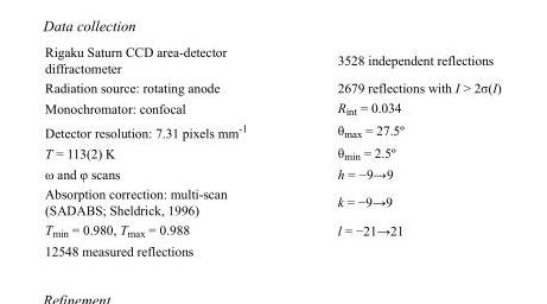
<table><tbody><tr><td>Rigaku Saturn CCD area-detector diffractometer</td><td>3528 independent reflections</td></tr><tr><td>Radiation source: rotating anode</td><td>2679 reflections with I &gt; 2σ(I)</td></tr><tr><td>Monochromator: confocal</td><td>R<sub>int</sub> = 0.034</td></tr><tr><td>Detector resolution: 7.31 pixels mm<sup>-1</sup></td><td>θ<sub>max</sub> = 27.5º</td></tr><tr><td>T = 113(2) K</td><td>θ<sub>min</sub> = 2.5º</td></tr><tr><td>ω and φ scans</td><td>h = −9→9</td></tr><tr><td>Absorption correction: multi-scan (SADABS; Sheldrick, 1996)</td><td>k = −9→9</td></tr><tr><td>T<sub>min</sub> = 0.980, T<sub>max</sub> = 0.988</td><td>l = −21→21</td></tr><tr><td>12548 measured reflections</td><td></td></tr></tbody></table>